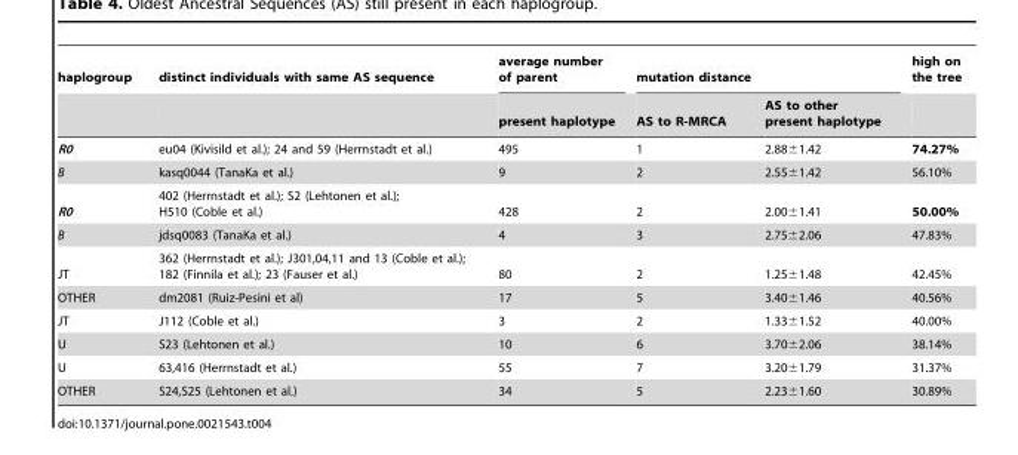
<table><thead><tr><td rowspan="2">haplogroup</td><td rowspan="2">distinct individuals with same AS sequence</td><td rowspan="2">average number of parent present haplotype</td><td colspan="2">mutation distance</td><td rowspan="2">high on the tree</td></tr><tr><td>AS to R-MRCA</td><td>AS to other present haplotype</td></tr></thead><tbody><tr><td>R0</td><td>eu04 (Kivisild et al.); 24 and 59 (Herrnstadt et al.)</td><td>495</td><td>1</td><td>2.88±1.42</td><td>74.27%</td></tr><tr><td>B</td><td>kasq0044 (TanaKa et al.)</td><td>9</td><td>2</td><td>2.55±1.42</td><td>56.10%</td></tr><tr><td>R0</td><td>402 (Herrnstadt et al.); S2 (Lehtonen et al.); H510 (Coble et al.)</td><td>428</td><td>2</td><td>2.00±1.41</td><td>50.00%</td></tr><tr><td>B</td><td>jdsq0083 (TanaKa et al.)</td><td>4</td><td>3</td><td>2.75±2.06</td><td>47.83%</td></tr><tr><td>JT</td><td>362 (Herrnstadt et al.); J301,04,11 and 13 (Coble et al.); 182 (Finnila et al.); 23 (Fauser et al.)</td><td>80</td><td>2</td><td>1.25±1.48</td><td>42.45%</td></tr><tr><td>OTHER</td><td>dm2081 (Ruiz-Pesini et al)</td><td>17</td><td>5</td><td>3.40±1.46</td><td>40.56%</td></tr><tr><td>JT</td><td>J112 (Coble et al.)</td><td>3</td><td>2</td><td>1.33±1.52</td><td>40.00%</td></tr><tr><td>U</td><td>S23 (Lehtonen et al.)</td><td>10</td><td>6</td><td>3.70±2.06</td><td>38.14%</td></tr><tr><td>U</td><td>63,416 (Herrnstadt et al.)</td><td>55</td><td>7</td><td>3.20±1.79</td><td>31.37%</td></tr><tr><td>OTHER</td><td>S24,S25 (Lehtonen et al.)</td><td>34</td><td>5</td><td>2.23±1.60</td><td>30.89%</td></tr></tbody></table>